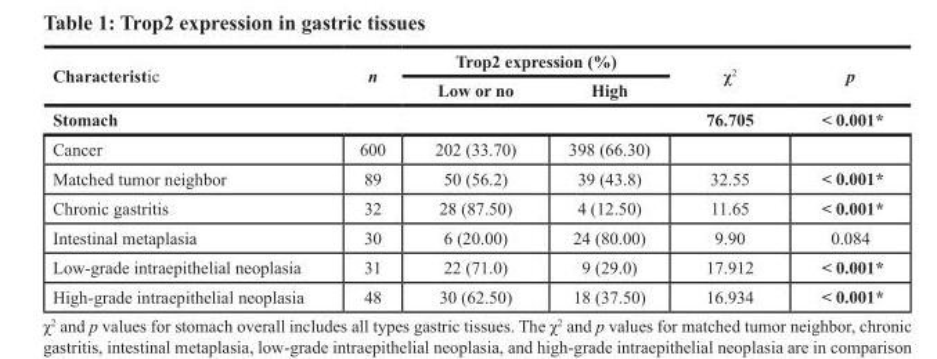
<table><thead><tr><td rowspan="3">Characteristic Stomach</td><td rowspan="3">n</td><td colspan="2">Trop2 expression (%)</td><td rowspan="3">χ<sup>2</sup> 76.705</td><td rowspan="3">p &lt; 0.001*</td></tr><tr><td rowspan="2">Low or no</td><td rowspan="2">High</td></tr><tr></tr></thead><tbody><tr><td>Cancer</td><td>600</td><td>202 (33.70)</td><td>398 (66.30)</td><td></td><td></td></tr><tr><td>Matched tumor neighbor</td><td>89</td><td>50 (56.2)</td><td>39 (43.8)</td><td>32.55</td><td>&lt; 0.001*</td></tr><tr><td>Chronic gastritis</td><td>32</td><td>28 (87.50)</td><td>4 (12.50)</td><td>11.65</td><td>&lt; 0.001*</td></tr><tr><td>Intestinal metaplasia</td><td>30</td><td>6 (20.00)</td><td>24 (80.00)</td><td>9.90</td><td>0.084</td></tr><tr><td>Low-grade intraepithelial neoplasia</td><td>31</td><td>22 (71.0)</td><td>9 (29.0)</td><td>17.912</td><td>&lt; 0.001*</td></tr><tr><td>High-grade intraepithelial neoplasia</td><td>48</td><td>30 (62.50)</td><td>18 (37.50)</td><td>16.934</td><td>&lt; 0.001*</td></tr></tbody></table>